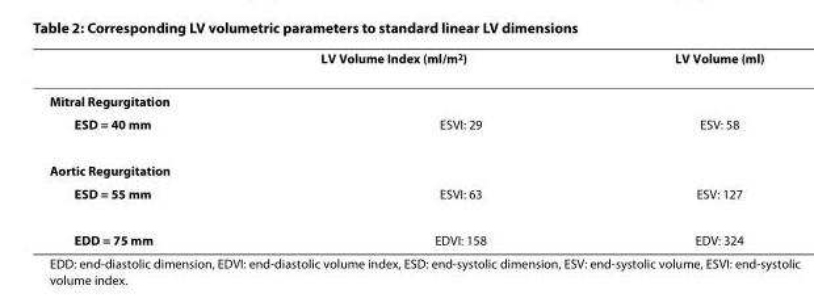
<table><thead><tr><td></td><td>LV Volume Index (ml/m<sup>2</sup>)</td><td>LV Volume (ml)</td></tr></thead><tbody><tr><td colspan="3">Mitral Regurgitation</td></tr><tr><td>ESD = 40 mm</td><td>ESVI: 29</td><td>ESV: 58</td></tr><tr><td colspan="3">Aortic Regurgitation</td></tr><tr><td>ESD = 55 mm</td><td>ESVI: 63</td><td>ESV: 127</td></tr><tr><td>EDD = 75 mm</td><td>EDVI: 158</td><td>EDV: 324</td></tr></tbody></table>